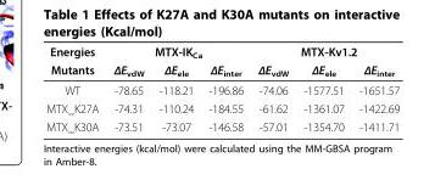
<table><thead><tr><td rowspan="2">Energies Mutants</td><td colspan="3">MTX-IK<sub>Ca</sub></td><td colspan="3">MTX-Kv1.2</td></tr><tr><td>ΔE<sub>vdW</sub></td><td>ΔE<sub>ele</sub></td><td>ΔE<sub>inter</sub></td><td>ΔE<sub>vdW</sub></td><td>ΔE<sub>ele</sub></td><td>ΔE<sub>inter</sub></td></tr></thead><tbody><tr><td>WT</td><td>-78.65</td><td>-118.21</td><td>-196.86</td><td>-74.06</td><td>-1577.51</td><td>-1651.57</td></tr><tr><td>MTX_K27A</td><td>-74.31</td><td>-110.24</td><td>-184.55</td><td>-61.62</td><td>-1361.07</td><td>-1422.69</td></tr><tr><td>MTX_K30A</td><td>-73.51</td><td>-73.07</td><td>-146.58</td><td>-57.01</td><td>-1354.70</td><td>-1411.71</td></tr></tbody></table>